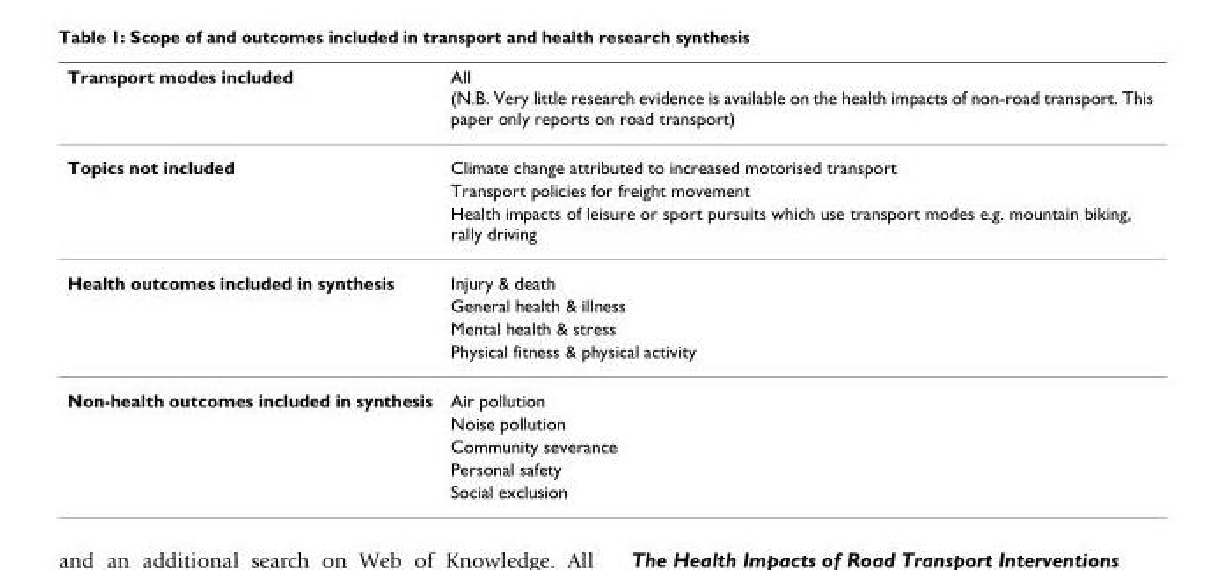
<table><thead><tr><td>Transport modes included</td><td>All (N.B. Very little research evidence is available on the health impacts of non-road transport. This paper only reports on road transport)</td></tr></thead><tbody><tr><td rowspan="3">Topics not included</td><td>Climate change attributed to increased motorised transport</td></tr><tr><td>Transport policies for freight movement</td></tr><tr><td>Health impacts of leisure or sport pursuits which use transport modes e.g. mountain biking, rally driving</td></tr><tr><td rowspan="4">Health outcomes included in synthesis</td><td>Injury &amp; death</td></tr><tr><td>General health &amp; illness</td></tr><tr><td>Mental health &amp; stress</td></tr><tr><td>Physical fitness &amp; physical activity</td></tr><tr><td rowspan="5">Non-health outcomes included in synthesis</td><td>Air pollution</td></tr><tr><td>Noise pollution</td></tr><tr><td>Community severance</td></tr><tr><td>Personal safety</td></tr><tr><td>Social exclusion</td></tr></tbody></table>